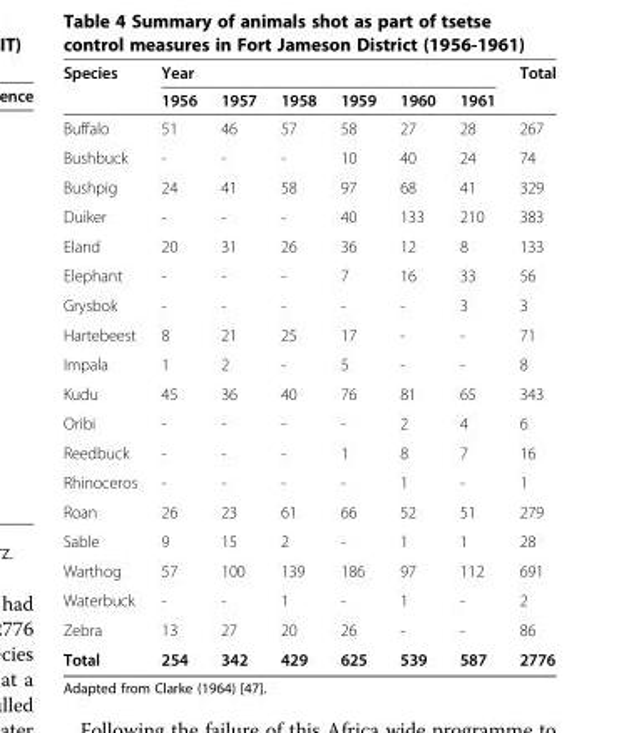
<table><thead><tr><td rowspan="2">Species</td><td colspan="6">Year</td><td rowspan="2">Total</td></tr><tr><td>1956</td><td>1957</td><td>1958</td><td>1959</td><td>1960</td><td>1961</td></tr></thead><tbody><tr><td>Buffalo</td><td>51</td><td>46</td><td>57</td><td>58</td><td>27</td><td>28</td><td>267</td></tr><tr><td>Bushbuck</td><td>-</td><td>-</td><td>-</td><td>10</td><td>40</td><td>24</td><td>74</td></tr><tr><td>Bushpig</td><td>24</td><td>41</td><td>58</td><td>97</td><td>68</td><td>41</td><td>329</td></tr><tr><td>Duiker</td><td>-</td><td>-</td><td>-</td><td>40</td><td>133</td><td>210</td><td>383</td></tr><tr><td>Eland</td><td>20</td><td>31</td><td>26</td><td>36</td><td>12</td><td>8</td><td>133</td></tr><tr><td>Elephant</td><td>-</td><td>-</td><td>-</td><td>7</td><td>16</td><td>33</td><td>56</td></tr><tr><td>Grysbok</td><td>-</td><td>-</td><td>-</td><td>-</td><td>-</td><td>3</td><td>3</td></tr><tr><td>Hartebeest</td><td>8</td><td>21</td><td>25</td><td>17</td><td>-</td><td>-</td><td>71</td></tr><tr><td>Impala</td><td>1</td><td>2</td><td>-</td><td>5</td><td>-</td><td>-</td><td>8</td></tr><tr><td>Kudu</td><td>45</td><td>36</td><td>40</td><td>76</td><td>81</td><td>65</td><td>343</td></tr><tr><td>Oribi</td><td>-</td><td>-</td><td>-</td><td>-</td><td>2</td><td>4</td><td>6</td></tr><tr><td>Reedbuck</td><td>-</td><td>-</td><td>-</td><td>1</td><td>8</td><td>7</td><td>16</td></tr><tr><td>Rhinoceros</td><td>-</td><td>-</td><td>-</td><td>-</td><td>1</td><td>-</td><td>1</td></tr><tr><td>Roan</td><td>26</td><td>23</td><td>61</td><td>66</td><td>52</td><td>51</td><td>279</td></tr><tr><td>Sable</td><td>9</td><td>15</td><td>2</td><td>-</td><td>1</td><td>1</td><td>28</td></tr><tr><td>Warthog</td><td>57</td><td>100</td><td>139</td><td>186</td><td>97</td><td>112</td><td>691</td></tr><tr><td>Waterbuck</td><td>-</td><td>-</td><td>1</td><td>-</td><td>1</td><td>-</td><td>2</td></tr><tr><td>Zebra</td><td>13</td><td>27</td><td>20</td><td>26</td><td>-</td><td>-</td><td>86</td></tr><tr><td>Total</td><td>254</td><td>342</td><td>429</td><td>625</td><td>539</td><td>587</td><td>2776</td></tr></tbody></table>